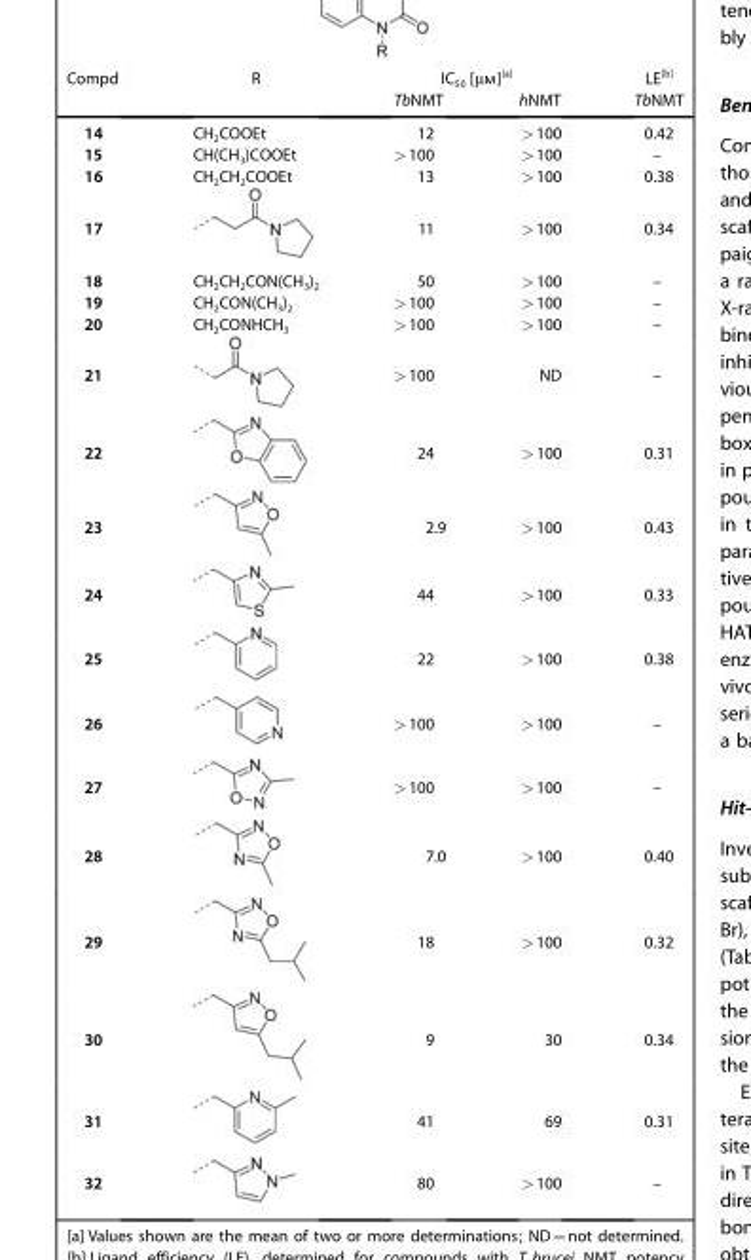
<table><thead><tr><td rowspan="2">Compd</td><td rowspan="2">R</td><td colspan="2">IC<sub>50</sub> [μm]<sup>[a]</sup></td><td rowspan="2">LE<sup>[b]</sup> TbNMT</td></tr><tr><td>TbNMT</td><td>hNMT</td></tr></thead><tbody><tr><td>14</td><td>CH<sub>2</sub>COOEt</td><td>12</td><td>&gt;100</td><td>0.42</td></tr><tr><td>15</td><td>CH(CH<sub>3</sub>)COOEt</td><td>&gt;100</td><td>&gt;100</td><td>–</td></tr><tr><td>16</td><td>CH<sub>2</sub>CH<sub>2</sub>COOEt</td><td>13</td><td>&gt;100</td><td>0.38</td></tr><tr><td>17</td><td></td><td>11</td><td>&gt;100</td><td>0.34</td></tr><tr><td>18</td><td>CH<sub>2</sub>CH<sub>2</sub>CON(CH<sub>3</sub>)<sub>2</sub></td><td>50</td><td>&gt;100</td><td>–</td></tr><tr><td>19</td><td>CH<sub>2</sub>CON(CH<sub>3</sub>)<sub>2</sub></td><td>&gt;100</td><td>&gt;100</td><td>–</td></tr><tr><td>20</td><td>CH<sub>2</sub>CONHCH<sub>3</sub></td><td>&gt;100</td><td>&gt;100</td><td>–</td></tr><tr><td>21</td><td></td><td>&gt;100</td><td>ND</td><td>–</td></tr><tr><td>22</td><td></td><td>24</td><td>&gt;100</td><td>0.31</td></tr><tr><td>23</td><td></td><td>2.9</td><td>&gt;100</td><td>0.43</td></tr><tr><td>24</td><td></td><td>44</td><td>&gt;100</td><td>0.33</td></tr><tr><td>25</td><td></td><td>22</td><td>&gt;100</td><td>0.38</td></tr><tr><td>26</td><td></td><td>&gt;100</td><td>&gt;100</td><td>–</td></tr><tr><td>27</td><td></td><td>&gt;100</td><td>&gt;100</td><td>–</td></tr><tr><td>28</td><td></td><td>7.0</td><td>&gt;100</td><td>0.40</td></tr><tr><td>29</td><td></td><td>18</td><td>&gt;100</td><td>0.32</td></tr><tr><td>30</td><td></td><td>9</td><td>30</td><td>0.34</td></tr><tr><td>31</td><td></td><td>41</td><td>69</td><td>0.31</td></tr><tr><td>32</td><td></td><td>80</td><td>&gt;100</td><td>–</td></tr></tbody></table>